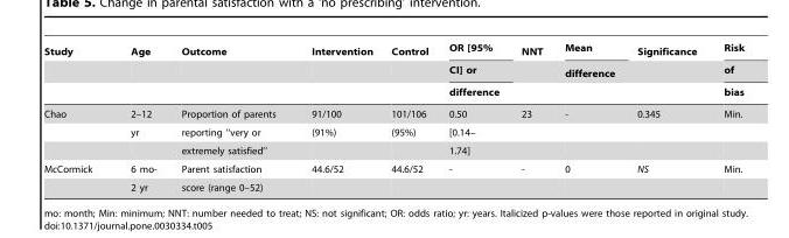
<table><thead><tr><td rowspan="3">Study</td><td rowspan="3">Age</td><td rowspan="3">Outcome</td><td rowspan="3">Intervention</td><td rowspan="3">Control</td><td rowspan="3">OR [95% CI] or difference</td><td rowspan="3">NNT</td><td rowspan="3">Mean difference</td><td rowspan="3">Significance</td><td rowspan="3">Risk of bias</td></tr><tr></tr><tr></tr></thead><tbody><tr><td rowspan="3">Chao</td><td>2–12</td><td>Proportion of parents</td><td>91/100</td><td>101/106</td><td>0.50</td><td>23</td><td>-</td><td>0.345</td><td>Min.</td></tr><tr><td>yr</td><td>reporting ‘‘very or</td><td>(91%)</td><td>(95%)</td><td>[0.14–</td><td></td><td></td><td></td><td></td></tr><tr><td></td><td>extremely satisfied’’</td><td></td><td></td><td>1.74]</td><td></td><td></td><td></td><td></td></tr><tr><td rowspan="2">McCormick</td><td>6 mo-</td><td>Parent satisfaction</td><td>44.6/52</td><td>44.6/52</td><td>-</td><td>-</td><td>0</td><td>NS</td><td>Min.</td></tr><tr><td>2 yr</td><td>score (range 0–52)</td><td></td><td></td><td></td><td></td><td></td><td></td><td></td></tr></tbody></table>